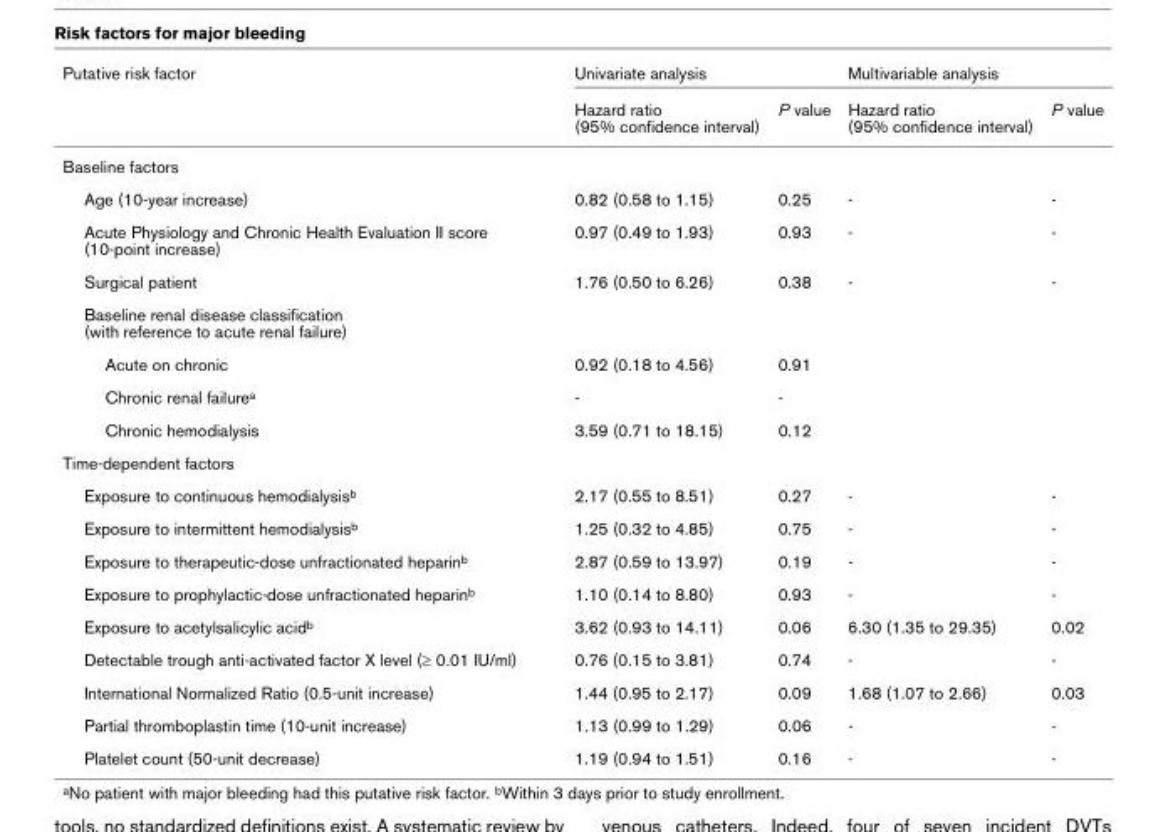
<table><thead><tr><td rowspan="2">Putative risk factor</td><td colspan="2">Univariate analysis</td><td colspan="2">Multivariable analysis</td></tr><tr><td>Hazard ratio (95% confidence interval)</td><td>P value</td><td>Hazard ratio (95% confidence interval)</td><td>P value</td></tr></thead><tbody><tr><td colspan="5">Baseline factors</td></tr><tr><td>Age (10-year increase)</td><td>0.82 (0.58 to 1.15)</td><td>0.25</td><td>-</td><td>-</td></tr><tr><td>Acute Physiology and Chronic Health Evaluation II score (10-point increase)</td><td>0.97 (0.49 to 1.93)</td><td>0.93</td><td>-</td><td>-</td></tr><tr><td>Surgical patient</td><td>1.76 (0.50 to 6.26)</td><td>0.38</td><td>-</td><td>-</td></tr><tr><td colspan="5">Baseline renal disease classification (with reference to acute renal failure)</td></tr><tr><td>Acute on chronic</td><td>0.92 (0.18 to 4.56)</td><td>0.91</td><td></td><td></td></tr><tr><td>Chronic renal failure<sup>a</sup></td><td>-</td><td>-</td><td></td><td></td></tr><tr><td>Chronic hemodialysis</td><td>3.59 (0.71 to 18.15)</td><td>0.12</td><td></td><td></td></tr><tr><td colspan="5">Time-dependent factors</td></tr><tr><td>Exposure to continuous hemodialysis<sup>b</sup></td><td>2.17 (0.55 to 8.51)</td><td>0.27</td><td>-</td><td>-</td></tr><tr><td>Exposure to intermittent hemodialysis<sup>b</sup></td><td>1.25 (0.32 to 4.85)</td><td>0.75</td><td>-</td><td>-</td></tr><tr><td>Exposure to therapeutic-dose unfractionated heparin<sup>b</sup></td><td>2.87 (0.59 to 13.97)</td><td>0.19</td><td>-</td><td>-</td></tr><tr><td>Exposure to prophylactic-dose unfractionated heparin<sup>b</sup></td><td>1.10 (0.14 to 8.80)</td><td>0.93</td><td>-</td><td>-</td></tr><tr><td>Exposure to acetylsalicylic acid<sup>b</sup></td><td>3.62 (0.93 to 14.11)</td><td>0.06</td><td>6.30 (1.35 to 29.35)</td><td>0.02</td></tr><tr><td>Detectable trough anti-activated factor X level (≥ 0.01 IU/ml)</td><td>0.76 (0.15 to 3.81)</td><td>0.74</td><td>-</td><td>-</td></tr><tr><td>International Normalized Ratio (0.5-unit increase)</td><td>1.44 (0.95 to 2.17)</td><td>0.09</td><td>1.68 (1.07 to 2.66)</td><td>0.03</td></tr><tr><td>Partial thromboplastin time (10-unit increase)</td><td>1.13 (0.99 to 1.29)</td><td>0.06</td><td>-</td><td>-</td></tr><tr><td>Platelet count (50-unit decrease)</td><td>1.19 (0.94 to 1.51)</td><td>0.16</td><td>-</td><td>-</td></tr></tbody></table>